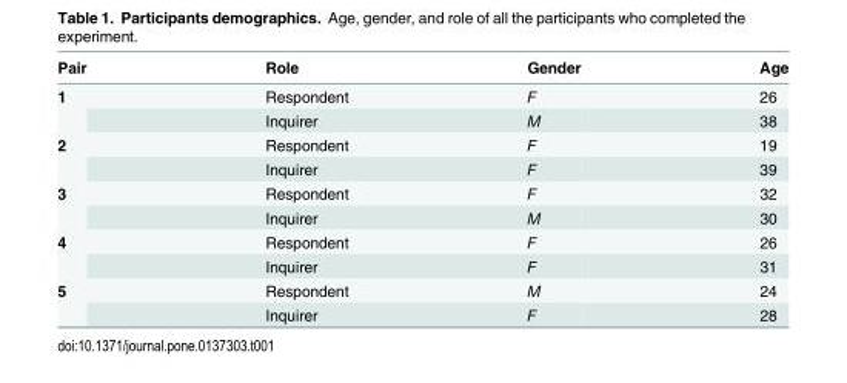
<table><thead><tr><td>Pair</td><td>Role</td><td>Gender</td><td>Age</td></tr></thead><tbody><tr><td rowspan="2">1</td><td>Respondent</td><td>F</td><td>26</td></tr><tr><td>Inquirer</td><td>M</td><td>38</td></tr><tr><td rowspan="2">2</td><td>Respondent</td><td>F</td><td>19</td></tr><tr><td>Inquirer</td><td>F</td><td>39</td></tr><tr><td rowspan="2">3</td><td>Respondent</td><td>F</td><td>32</td></tr><tr><td>Inquirer</td><td>M</td><td>30</td></tr><tr><td rowspan="2">4</td><td>Respondent</td><td>F</td><td>26</td></tr><tr><td>Inquirer</td><td>F</td><td>31</td></tr><tr><td rowspan="2">5</td><td>Respondent</td><td>M</td><td>24</td></tr><tr><td>Inquirer</td><td>F</td><td>28</td></tr></tbody></table>